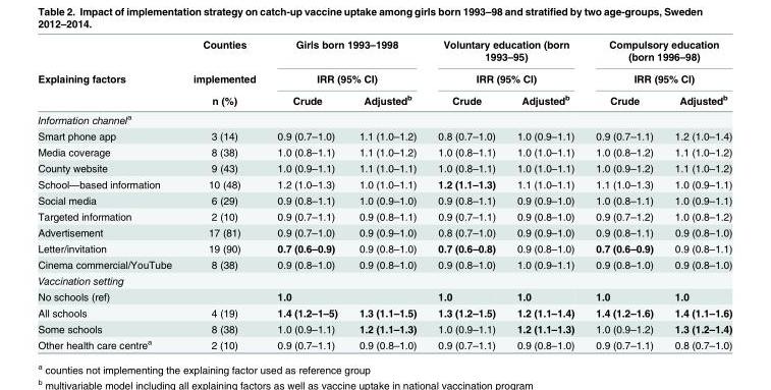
<table><thead><tr><td rowspan="3">Explaining factors</td><td rowspan="3">Counties implemented n (%)</td><td rowspan="2" colspan="2">Girls born 1993–1998 IRR (95% CI)</td><td rowspan="2" colspan="2">Voluntary education (born 1993–95) IRR (95% CI)</td><td rowspan="2" colspan="2">Compulsory education (born 1996–98) IRR (95% CI)</td></tr><tr></tr><tr><td>Crude</td><td>Adjusted<sup>b</sup></td><td>Crude</td><td>Adjusted<sup>b</sup></td><td>Crude</td><td>Adjusted<sup>b</sup></td></tr></thead><tbody><tr><td colspan="8">Information channel<sup>a</sup></td></tr><tr><td>Smart phone app</td><td>3 (14)</td><td>0.9 (0.7–1.0)</td><td>1.1 (1.0–1.2)</td><td>0.8 (0.7–1.0)</td><td>1.0 (0.9–1.1)</td><td>0.9 (0.7–1.1)</td><td>1.2 (1.0–1.4)</td></tr><tr><td>Media coverage</td><td>8 (38)</td><td>1.0 (0.8–1.1)</td><td>1.1 (1.0–1.2)</td><td>1.0 (0.8–1.1)</td><td>1.0 (1.0–1.1)</td><td>1.0 (0.8–1.2)</td><td>1.1 (1.0–1.2)</td></tr><tr><td>County website</td><td>9 (43)</td><td>1.0 (0.9–1.1)</td><td>1.1 (1.0–1.1)</td><td>1.0 (0.8–1.1)</td><td>1.0 (1.0–1.1)</td><td>1.0 (0.9–1.2)</td><td>1.1 (1.0–1.2)</td></tr><tr><td>School—based information</td><td>10 (48)</td><td>1.2 (1.0–1.3)</td><td>1.0 (1.0–1.1)</td><td>1.2 (1.1–1.3)</td><td>1.1 (1.0–1.1)</td><td>1.1 (1.0–1.3)</td><td>1.0 (0.9–1.1)</td></tr><tr><td>Social media</td><td>6 (29)</td><td>0.9 (0.8–1.1)</td><td>1.0 (0.9–1.0)</td><td>0.9 (0.8–1.1)</td><td>0.9 (0.9–1.0)</td><td>1.0 (0.8–1.1)</td><td>1.0 (0.9–1.1)</td></tr><tr><td>Targeted information</td><td>2 (10)</td><td>0.9 (0.7–1.1)</td><td>0.9 (0.8–1.1)</td><td>0.9 (0.7–1.1)</td><td>0.9 (0.8–1.0)</td><td>0.9 (0.7–1.2)</td><td>1.0 (0.8–1.2)</td></tr><tr><td>Advertisement</td><td>17 (81)</td><td>0.9 (0.7–1.0)</td><td>0.9 (0.9–1.0)</td><td>0.8 (0.7–1.0)</td><td>0.9 (0.9–1.0)</td><td>0.9 (0.8–1.1)</td><td>0.9 (0.8–1.0)</td></tr><tr><td>Letter/invitation</td><td>19 (90)</td><td>0.7 (0.6–0.9)</td><td>0.9 (0.8–1.0)</td><td>0.7 (0.6–0.8)</td><td>0.9 (0.8–1.0)</td><td>0.7 (0.6–0.9)</td><td>0.9 (0.8–1.1)</td></tr><tr><td>Cinema commercial/YouTube</td><td>8 (38)</td><td>0.9 (0.8–1.0)</td><td>0.9 (0.8–1.0)</td><td>0.9 (0.8–1.0)</td><td>1.0 (0.9–1.1)</td><td>0.9 (0.8–1.0)</td><td>0.9 (0.8–1.0)</td></tr><tr><td colspan="8">Vaccination setting</td></tr><tr><td>No schools (ref)</td><td></td><td>1.0</td><td></td><td>1.0</td><td>1.0</td><td>1.0</td><td>1.0</td></tr><tr><td>All schools</td><td>4 (19)</td><td>1.4 (1.2–1–5)</td><td>1.3 (1.1–1.5)</td><td>1.3 (1.2–1.5)</td><td>1.2 (1.1–1.4)</td><td>1.4 (1.2–1.6)</td><td>1.4 (1.1–1.6)</td></tr><tr><td>Some schools</td><td>8 (38)</td><td>1.0 (0.9–1.1)</td><td>1.2 (1.1–1.3)</td><td>1.0 (0.9–1.1)</td><td>1.2 (1.1–1.3)</td><td>1.0 (0.9–1.2)</td><td>1.3 (1.2–1.4)</td></tr><tr><td>Other health care centre<sup>a</sup></td><td>2 (10)</td><td>0.9 (0.7–1.1)</td><td>0.9 (0.8–1.0)</td><td>0.9 (0.7–1.1)</td><td>0.9 (0.8–1.0)</td><td>0.9 (0.7–1.1)</td><td>0.8 (0.7–1.0)</td></tr></tbody></table>